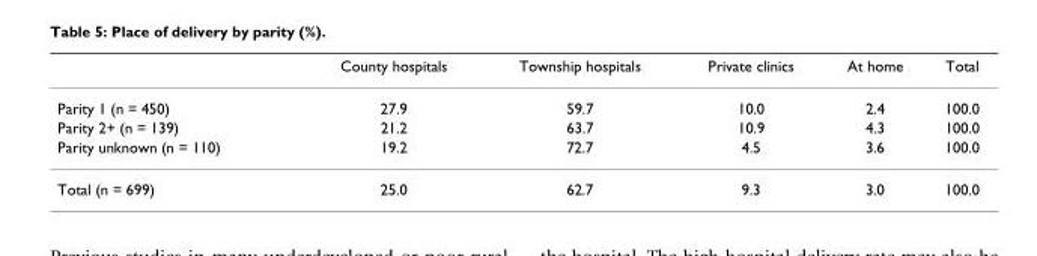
<table><thead><tr><td></td><td>County hospitals</td><td>Township hospitals</td><td>Private clinics</td><td>At home</td><td>Total</td></tr></thead><tbody><tr><td>Parity 1 (n = 450)</td><td>27.9</td><td>59.7</td><td>10.0</td><td>2.4</td><td>100.0</td></tr><tr><td>Parity 2+ (n = 139)</td><td>21.2</td><td>63.7</td><td>10.9</td><td>4.3</td><td>100.0</td></tr><tr><td>Parity unknown (n = 110)</td><td>19.2</td><td>72.7</td><td>4.5</td><td>3.6</td><td>100.0</td></tr><tr><td>Total (n = 699)</td><td>25.0</td><td>62.7</td><td>9.3</td><td>3.0</td><td>100.0</td></tr></tbody></table>